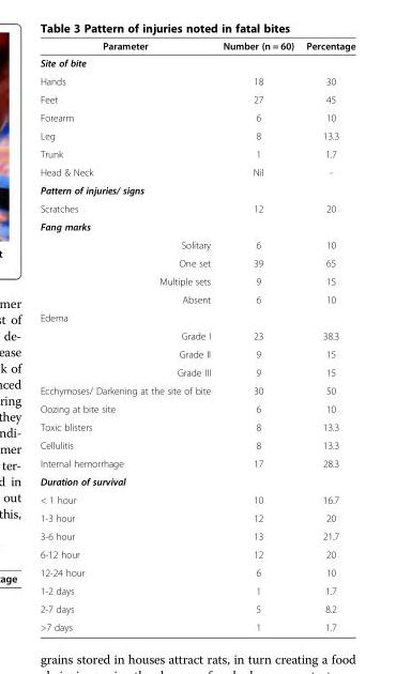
<table><thead><tr><td>Parameter</td><td>Number (n = 60)</td><td>Percentage</td></tr></thead><tbody><tr><td colspan="3">Site of bite</td></tr><tr><td>Hands</td><td>18</td><td>30</td></tr><tr><td>Feet</td><td>27</td><td>45</td></tr><tr><td>Forearm</td><td>6</td><td>10</td></tr><tr><td>Leg</td><td>8</td><td>13.3</td></tr><tr><td>Trunk</td><td>1</td><td>1.7</td></tr><tr><td>Head &amp; Neck</td><td>Nil</td><td>-</td></tr><tr><td colspan="3">Pattern of injuries/ signs</td></tr><tr><td>Scratches</td><td>12</td><td>20</td></tr><tr><td colspan="3">Fang marks</td></tr><tr><td>Solitary</td><td>6</td><td>10</td></tr><tr><td>One set</td><td>39</td><td>65</td></tr><tr><td>Multiple sets</td><td>9</td><td>15</td></tr><tr><td>Absent</td><td>6</td><td>10</td></tr><tr><td colspan="3">Edema</td></tr><tr><td>Grade I</td><td>23</td><td>38.3</td></tr><tr><td>Grade II</td><td>9</td><td>15</td></tr><tr><td>Grade III</td><td>9</td><td>15</td></tr><tr><td>Ecchymoses/ Darkening at the site of bite</td><td>30</td><td>50</td></tr><tr><td>Oozing at bite site</td><td>6</td><td>10</td></tr><tr><td>Toxic blisters</td><td>8</td><td>13.3</td></tr><tr><td>Cellulitis</td><td>8</td><td>13.3</td></tr><tr><td>Internal hemorrhage</td><td>17</td><td>28.3</td></tr><tr><td colspan="3">Duration of survival</td></tr><tr><td>&lt; 1 hour</td><td>10</td><td>16.7</td></tr><tr><td>1-3 hour</td><td>12</td><td>20</td></tr><tr><td>3-6 hour</td><td>13</td><td>21.7</td></tr><tr><td>6-12 hour</td><td>12</td><td>20</td></tr><tr><td>12-24 hour</td><td>6</td><td>10</td></tr><tr><td>1-2 days</td><td>1</td><td>1.7</td></tr><tr><td>2-7 days</td><td>5</td><td>8.2</td></tr><tr><td>&gt;7 days</td><td>1</td><td>1.7</td></tr></tbody></table>